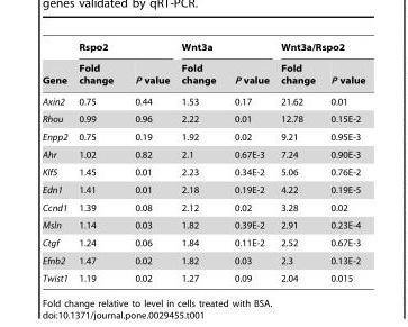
<table><thead><tr><td rowspan="2">Gene</td><td colspan="2">Rspo2</td><td colspan="2">Wnt3a</td><td colspan="2">Wnt3a/Rspo2</td></tr><tr><td>Fold change</td><td>P value</td><td>Fold change</td><td>P value</td><td>Fold change</td><td>P value</td></tr></thead><tbody><tr><td>Axin2</td><td>0.75</td><td>0.44</td><td>1.53</td><td>0.17</td><td>21.62</td><td>0.01</td></tr><tr><td>Rhou</td><td>0.99</td><td>0.96</td><td>2.22</td><td>0.01</td><td>12.78</td><td>0.15E-2</td></tr><tr><td>Enpp2</td><td>0.75</td><td>0.19</td><td>1.92</td><td>0.02</td><td>9.21</td><td>0.95E-3</td></tr><tr><td>Ahr</td><td>1.02</td><td>0.82</td><td>2.1</td><td>0.67E-3</td><td>7.24</td><td>0.90E-3</td></tr><tr><td>Klf5</td><td>1.45</td><td>0.01</td><td>2.23</td><td>0.34E-2</td><td>5.06</td><td>0.76E-2</td></tr><tr><td>Edn1</td><td>1.41</td><td>0.01</td><td>2.18</td><td>0.19E-2</td><td>4.22</td><td>0.19E-5</td></tr><tr><td>Ccnd1</td><td>1.39</td><td>0.08</td><td>2.12</td><td>0.02</td><td>3.28</td><td>0.02</td></tr><tr><td>Msln</td><td>1.14</td><td>0.03</td><td>1.82</td><td>0.39E-2</td><td>2.91</td><td>0.23E-4</td></tr><tr><td>Ctgf</td><td>1.24</td><td>0.06</td><td>1.84</td><td>0.11E-2</td><td>2.52</td><td>0.67E-3</td></tr><tr><td>Efnb2</td><td>1.47</td><td>0.02</td><td>1.82</td><td>0.03</td><td>2.3</td><td>0.13E-2</td></tr><tr><td>Twist1</td><td>1.19</td><td>0.02</td><td>1.27</td><td>0.09</td><td>2.04</td><td>0.015</td></tr></tbody></table>